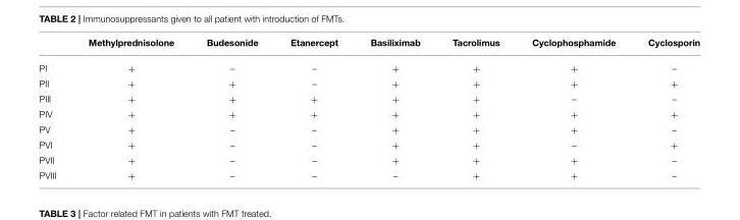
<table><thead><tr><td></td><td>Methylprednisolone</td><td>Budesonide</td><td>Etanercept</td><td>Basiliximab</td><td>Tacrolimus</td><td>Cyclophosphamide</td><td>Cyclosporin</td></tr></thead><tbody><tr><td>PI</td><td>+</td><td>–</td><td>–</td><td>+</td><td>+</td><td>+</td><td>–</td></tr><tr><td>PII</td><td>+</td><td>+</td><td>–</td><td>+</td><td>+</td><td>+</td><td>+</td></tr><tr><td>PIII</td><td>+</td><td>+</td><td>+</td><td>+</td><td>+</td><td>–</td><td>–</td></tr><tr><td>PIV</td><td>+</td><td>+</td><td>+</td><td>+</td><td>+</td><td>+</td><td>+</td></tr><tr><td>PV</td><td>+</td><td>–</td><td>–</td><td>+</td><td>+</td><td>+</td><td>–</td></tr><tr><td>PVI</td><td>+</td><td>–</td><td>–</td><td>+</td><td>+</td><td>–</td><td>+</td></tr><tr><td>PVII</td><td>+</td><td>–</td><td>–</td><td>+</td><td>+</td><td>+</td><td>–</td></tr><tr><td>PVIII</td><td>+</td><td>–</td><td>–</td><td>–</td><td>+</td><td>+</td><td>–</td></tr></tbody></table>